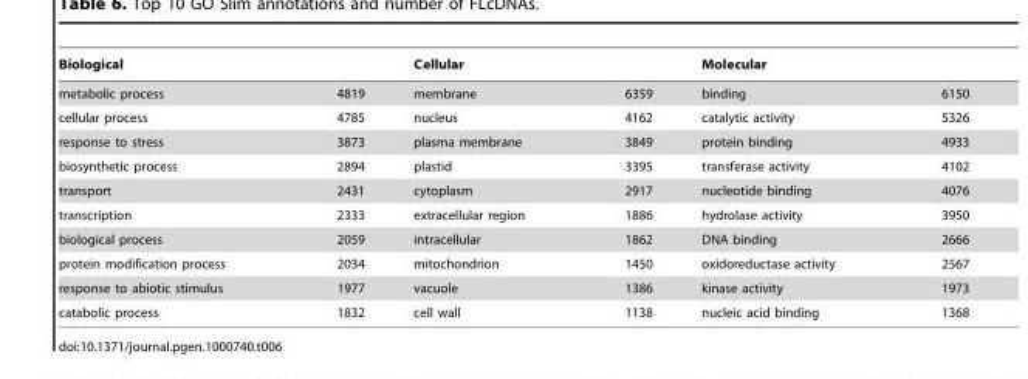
<table><thead><tr><td>Biological</td><td></td><td>Cellular</td><td></td><td>Molecular</td><td></td></tr></thead><tbody><tr><td>metabolic process</td><td>4819</td><td>membrane</td><td>6359</td><td>binding</td><td>6150</td></tr><tr><td>cellular process</td><td>4785</td><td>nucleus</td><td>4162</td><td>catalytic activity</td><td>5326</td></tr><tr><td>response to stress</td><td>3873</td><td>plasma membrane</td><td>3849</td><td>protein binding</td><td>4933</td></tr><tr><td>biosynthetic process</td><td>2894</td><td>plastid</td><td>3395</td><td>transferase activity</td><td>4102</td></tr><tr><td>transport</td><td>2431</td><td>cytoplasm</td><td>2917</td><td>nucleotide binding</td><td>4076</td></tr><tr><td>transcription</td><td>2333</td><td>extracellular region</td><td>1886</td><td>hydrolase activity</td><td>3950</td></tr><tr><td>biological process</td><td>2059</td><td>intracellular</td><td>1862</td><td>DNA binding</td><td>2666</td></tr><tr><td>protein modification process</td><td>2034</td><td>mitochondrion</td><td>1450</td><td>oxidoreductase activity</td><td>2567</td></tr><tr><td>response to abiotic stimulus</td><td>1977</td><td>vacuole</td><td>1386</td><td>kinase activity</td><td>1973</td></tr><tr><td>catabolic process</td><td>1832</td><td>cell wall</td><td>1138</td><td>nucleic acid binding</td><td>1368</td></tr></tbody></table>